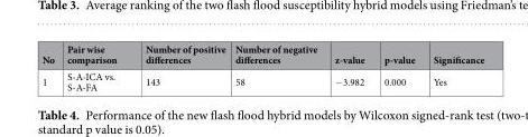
<table><thead><tr><td>No</td><td>Pair wise comparison</td><td>Number of positive differences</td><td>Number of negative differences</td><td>z-value</td><td>p-value</td><td>Significance</td></tr></thead><tbody><tr><td>1</td><td>S-A-ICA vs. S-A-FA</td><td>143</td><td>58</td><td>−3.982</td><td>0.000</td><td>Yes</td></tr></tbody></table>